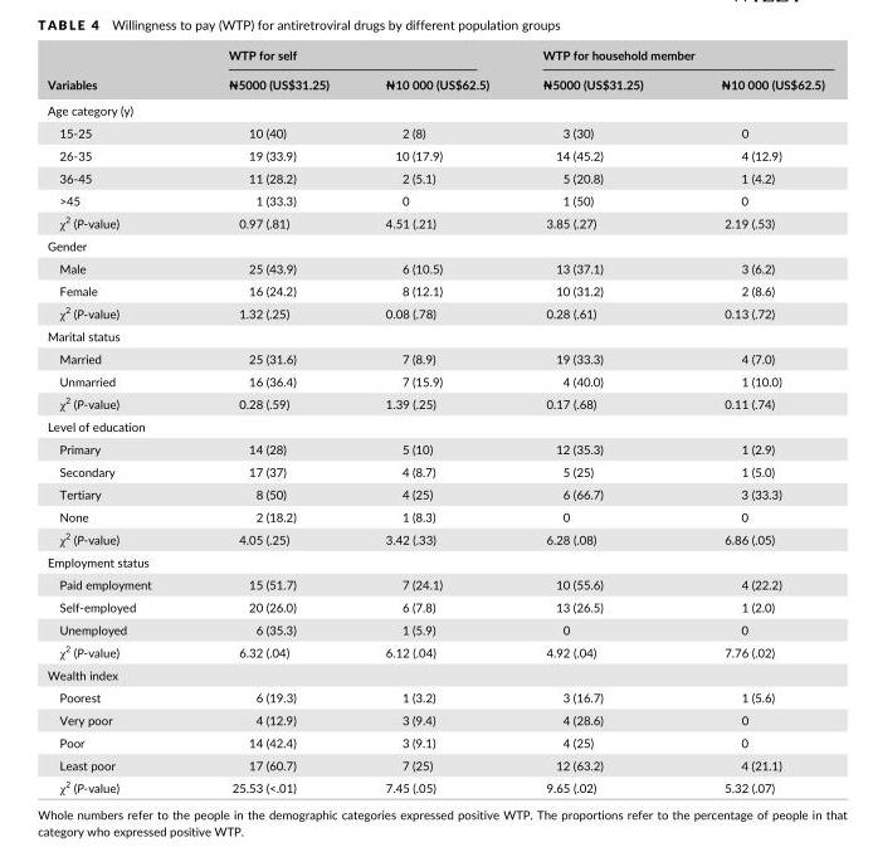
<table><thead><tr><td rowspan="2">Variables</td><td colspan="2">WTP for self</td><td colspan="2">WTP for household member</td></tr><tr><td>₦5000 (US$31.25)</td><td>₦10 000 (US$62.5)</td><td>₦5000 (US$31.25)</td><td>₦10 000 (US$62.5)</td></tr></thead><tbody><tr><td colspan="5">Age category (y)</td></tr><tr><td>15- 25</td><td>10 (40)</td><td>2 (8)</td><td>3 (30)</td><td>0</td></tr><tr><td>26- 35</td><td>19 (33.9)</td><td>10 (17.9)</td><td>14 (45.2)</td><td>4 (12.9)</td></tr><tr><td>36- 45</td><td>11 (28.2)</td><td>2 (5.1)</td><td>5 (20.8)</td><td>1 (4.2)</td></tr><tr><td>&gt;45</td><td>1 (33.3)</td><td>0</td><td>1 (50)</td><td>0</td></tr><tr><td>χ<sup>2</sup> (P- value)</td><td>0.97 (.81)</td><td>4.51 (.21)</td><td>3.85 (.27)</td><td>2.19 (.53)</td></tr><tr><td colspan="5">Gender</td></tr><tr><td>Male</td><td>25 (43.9)</td><td>6 (10.5)</td><td>13 (37.1)</td><td>3 (6.2)</td></tr><tr><td>Female</td><td>16 (24.2)</td><td>8 (12.1)</td><td>10 (31.2)</td><td>2 (8.6)</td></tr><tr><td>χ<sup>2</sup> (P- value)</td><td>1.32 (.25)</td><td>0.08 (.78)</td><td>0.28 (.61)</td><td>0.13 (.72)</td></tr><tr><td colspan="5">Marital status</td></tr><tr><td>Married</td><td>25 (31.6)</td><td>7 (8.9)</td><td>19 (33.3)</td><td>4 (7.0)</td></tr><tr><td>Unmarried</td><td>16 (36.4)</td><td>7 (15.9)</td><td>4 (40.0)</td><td>1 (10.0)</td></tr><tr><td>χ<sup>2</sup> (P- value)</td><td>0.28 (.59)</td><td>1.39 (.25)</td><td>0.17 (.68)</td><td>0.11 (.74)</td></tr><tr><td colspan="5">Level of education</td></tr><tr><td>Primary</td><td>14 (28)</td><td>5 (10)</td><td>12 (35.3)</td><td>1 (2.9)</td></tr><tr><td>Secondary</td><td>17 (37)</td><td>4 (8.7)</td><td>5 (25)</td><td>1 (5.0)</td></tr><tr><td>Tertiary</td><td>8 (50)</td><td>4 (25)</td><td>6 (66.7)</td><td>3 (33.3)</td></tr><tr><td>None</td><td>2 (18.2)</td><td>1 (8.3)</td><td>0</td><td>0</td></tr><tr><td>χ<sup>2</sup> (P- value)</td><td>4.05 (.25)</td><td>3.42 (.33)</td><td>6.28 (.08)</td><td>6.86 (.05)</td></tr><tr><td colspan="5">Employment status</td></tr><tr><td>Paid employment</td><td>15 (51.7)</td><td>7 (24.1)</td><td>10 (55.6)</td><td>4 (22.2)</td></tr><tr><td>Self- employed</td><td>20 (26.0)</td><td>6 (7.8)</td><td>13 (26.5)</td><td>1 (2.0)</td></tr><tr><td>Unemployed</td><td>6 (35.3)</td><td>1 (5.9)</td><td>0</td><td>0</td></tr><tr><td>χ<sup>2</sup> (P- value)</td><td>6.32 (.04)</td><td>6.12 (.04)</td><td>4.92 (.04)</td><td>7.76 (.02)</td></tr><tr><td colspan="5">Wealth index</td></tr><tr><td>Poorest</td><td>6 (19.3)</td><td>1 (3.2)</td><td>3 (16.7)</td><td>1 (5.6)</td></tr><tr><td>Very poor</td><td>4 (12.9)</td><td>3 (9.4)</td><td>4 (28.6)</td><td>0</td></tr><tr><td>Poor</td><td>14 (42.4)</td><td>3 (9.1)</td><td>4 (25)</td><td>0</td></tr><tr><td>Least poor</td><td>17 (60.7)</td><td>7 (25)</td><td>12 (63.2)</td><td>4 (21.1)</td></tr><tr><td>χ<sup>2</sup> (P- value)</td><td>25.53 (&lt;.01)</td><td>7.45 (.05)</td><td>9.65 (.02)</td><td>5.32 (.07)</td></tr></tbody></table>